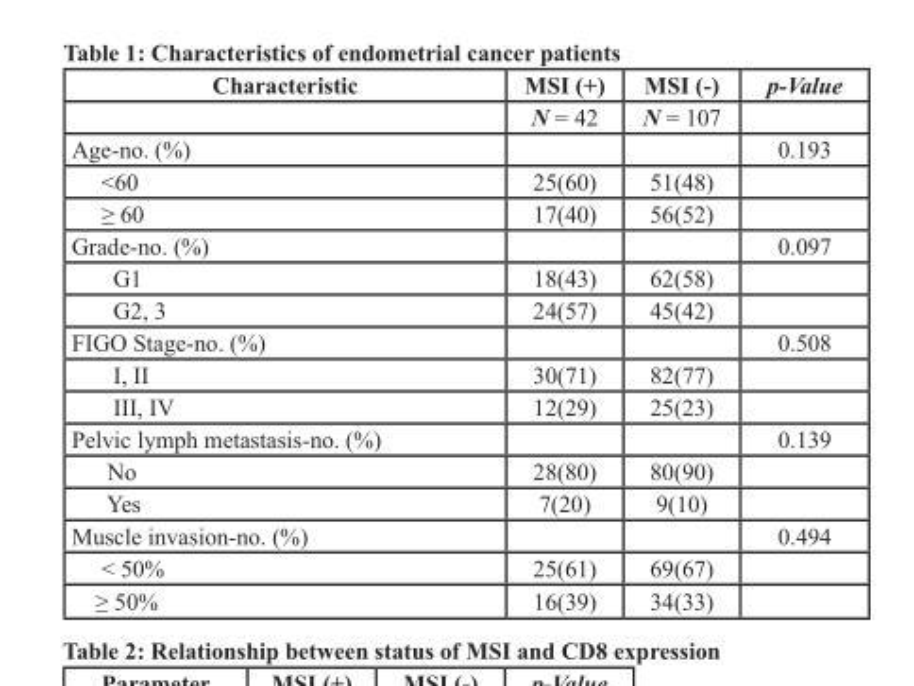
<table><thead><tr><td>Characteristic</td><td>MSI (+)</td><td>MSI (-)</td><td>p-Value</td></tr></thead><tbody><tr><td></td><td>N = 42</td><td>N = 107</td><td></td></tr><tr><td>Age-no. (%)</td><td></td><td></td><td>0.193</td></tr><tr><td>&lt;60</td><td>25(60)</td><td>51(48)</td><td></td></tr><tr><td>≥ 60</td><td>17(40)</td><td>56(52)</td><td></td></tr><tr><td>Grade-no. (%)</td><td></td><td></td><td>0.097</td></tr><tr><td>G1</td><td>18(43)</td><td>62(58)</td><td></td></tr><tr><td>G2, 3</td><td>24(57)</td><td>45(42)</td><td></td></tr><tr><td>FIGO Stage-no. (%)</td><td></td><td></td><td>0.508</td></tr><tr><td>I, II</td><td>30(71)</td><td>82(77)</td><td></td></tr><tr><td>III, IV</td><td>12(29)</td><td>25(23)</td><td></td></tr><tr><td>Pelvic lymph metastasis-no. (%)</td><td></td><td></td><td>0.139</td></tr><tr><td>No</td><td>28(80)</td><td>80(90)</td><td></td></tr><tr><td>Yes</td><td>7(20)</td><td>9(10)</td><td></td></tr><tr><td>Muscle invasion-no. (%)</td><td></td><td></td><td>0.494</td></tr><tr><td>&lt; 50%</td><td>25(61)</td><td>69(67)</td><td></td></tr><tr><td>≥ 50%</td><td>16(39)</td><td>34(33)</td><td></td></tr></tbody></table>